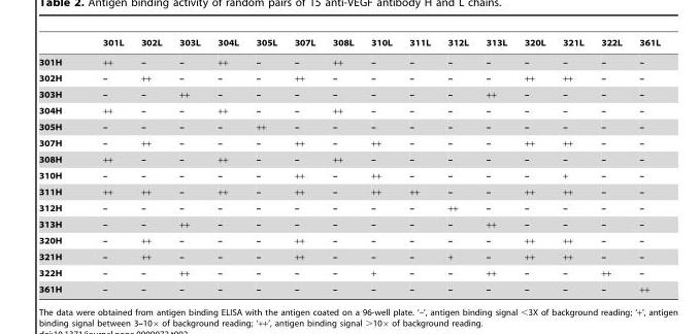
<table><thead><tr><td></td><td>301L</td><td>302L</td><td>303L</td><td>304L</td><td>305L</td><td>307L</td><td>308L</td><td>310L</td><td>311L</td><td>312L</td><td>313L</td><td>320L</td><td>321L</td><td>322L</td><td>361L</td></tr></thead><tbody><tr><td>301H</td><td>++</td><td>–</td><td>–</td><td>++</td><td>–</td><td>–</td><td>++</td><td>–</td><td>–</td><td>–</td><td>–</td><td>–</td><td>–</td><td>–</td><td>–</td></tr><tr><td>302H</td><td>–</td><td>++</td><td>–</td><td>–</td><td>–</td><td>++</td><td>–</td><td>–</td><td>–</td><td>–</td><td>–</td><td>++</td><td>++</td><td>–</td><td>–</td></tr><tr><td>303H</td><td>–</td><td>–</td><td>++</td><td>–</td><td>–</td><td>–</td><td>–</td><td>–</td><td>–</td><td>–</td><td>++</td><td>–</td><td>–</td><td>–</td><td>–</td></tr><tr><td>304H</td><td>++</td><td>–</td><td>–</td><td>++</td><td>–</td><td>–</td><td>++</td><td>–</td><td>–</td><td>–</td><td>–</td><td>–</td><td>–</td><td>–</td><td>–</td></tr><tr><td>305H</td><td>–</td><td>–</td><td>–</td><td>–</td><td>++</td><td>–</td><td>–</td><td>–</td><td>–</td><td>–</td><td>–</td><td>–</td><td>–</td><td>–</td><td>–</td></tr><tr><td>307H</td><td>–</td><td>++</td><td>–</td><td>–</td><td>–</td><td>++</td><td>–</td><td>++</td><td>–</td><td>–</td><td>–</td><td>++</td><td>++</td><td>–</td><td>–</td></tr><tr><td>308H</td><td>++</td><td>–</td><td>–</td><td>++</td><td>–</td><td>–</td><td>++</td><td>–</td><td>–</td><td>–</td><td>–</td><td>–</td><td>–</td><td>–</td><td>–</td></tr><tr><td>310H</td><td>–</td><td>–</td><td>–</td><td>–</td><td>–</td><td>++</td><td>–</td><td>++</td><td>–</td><td>–</td><td>–</td><td>–</td><td>+</td><td>–</td><td>–</td></tr><tr><td>311H</td><td>++</td><td>++</td><td>–</td><td>++</td><td>–</td><td>++</td><td>–</td><td>++</td><td>++</td><td>–</td><td>–</td><td>++</td><td>++</td><td>–</td><td>–</td></tr><tr><td>312H</td><td>–</td><td>–</td><td>–</td><td>–</td><td>–</td><td>–</td><td>–</td><td>–</td><td>–</td><td>++</td><td>–</td><td>–</td><td>–</td><td>–</td><td>–</td></tr><tr><td>313H</td><td>–</td><td>–</td><td>++</td><td>–</td><td>–</td><td>–</td><td>–</td><td>–</td><td>–</td><td>–</td><td>++</td><td>–</td><td>–</td><td>–</td><td>–</td></tr><tr><td>320H</td><td>–</td><td>++</td><td>–</td><td>–</td><td>–</td><td>++</td><td>–</td><td>–</td><td>–</td><td>–</td><td>–</td><td>++</td><td>++</td><td>–</td><td>–</td></tr><tr><td>321H</td><td>–</td><td>++</td><td>–</td><td>–</td><td>–</td><td>++</td><td>–</td><td>–</td><td>–</td><td>+</td><td>–</td><td>++</td><td>++</td><td>–</td><td>–</td></tr><tr><td>322H</td><td>–</td><td>–</td><td>++</td><td>–</td><td>–</td><td>–</td><td>–</td><td>+</td><td>–</td><td>–</td><td>++</td><td>–</td><td>–</td><td>++</td><td>–</td></tr><tr><td>361H</td><td>–</td><td>–</td><td>–</td><td>–</td><td>–</td><td>–</td><td>–</td><td>–</td><td>–</td><td>–</td><td>–</td><td>–</td><td>–</td><td>–</td><td>++</td></tr></tbody></table>